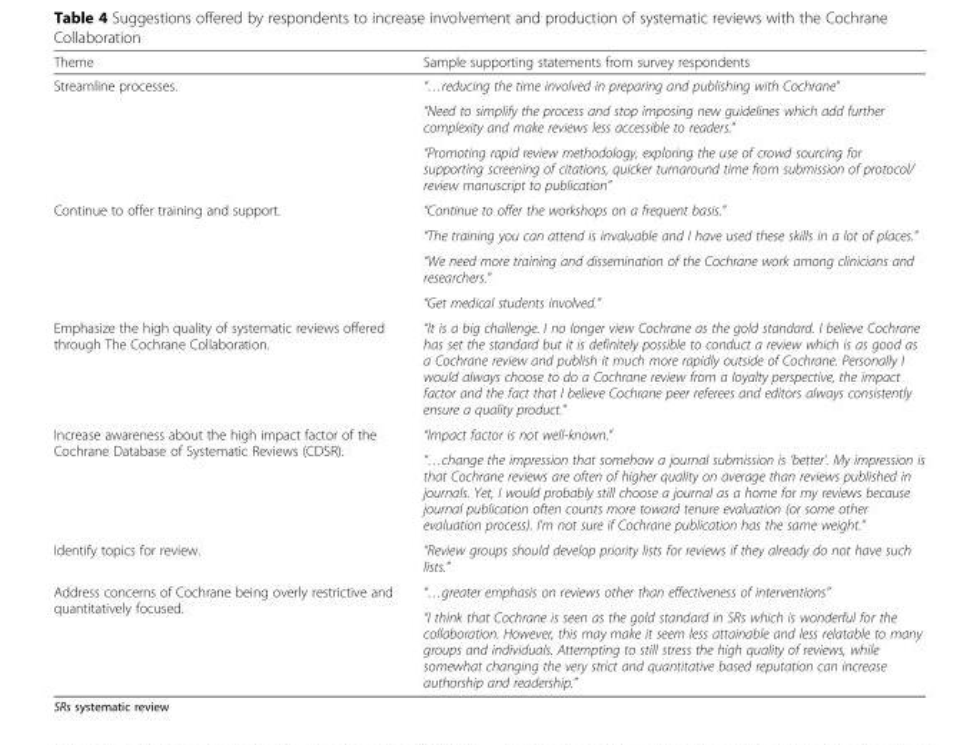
<table><thead><tr><td>Theme</td><td>Sample supporting statements from survey respondents</td></tr></thead><tbody><tr><td rowspan="3">Streamline processes.</td><td>“…reducing the time involved in preparing and publishing with Cochrane”</td></tr><tr><td>“Need to simplify the process and stop imposing new guidelines which add further complexity and make reviews less accessible to readers.”</td></tr><tr><td>“Promoting rapid review methodology, exploring the use of crowd sourcing for supporting screening of citations, quicker turnaround time from submission of protocol/ review manuscript to publication”</td></tr><tr><td rowspan="4">Continue to offer training and support.</td><td>“Continue to offer the workshops on a frequent basis.”</td></tr><tr><td>“The training you can attend is invaluable and I have used these skills in a lot of places.”</td></tr><tr><td>“We need more training and dissemination of the Cochrane work among clinicians and researchers.”</td></tr><tr><td>“Get medical students involved.”</td></tr><tr><td>Emphasize the high quality of systematic reviews offered through The Cochrane Collaboration.</td><td>“It is a big challenge. I no longer view Cochrane as the gold standard. I believe Cochrane has set the standard but it is definitely possible to conduct a review which is as good as a Cochrane review and publish it much more rapidly outside of Cochrane. Personally I would always choose to do a Cochrane review from a loyalty perspective, the impact factor and the fact that I believe Cochrane peer referees and editors always consistently ensure a quality product.”</td></tr><tr><td rowspan="2">Increase awareness about the high impact factor of the Cochrane Database of Systematic Reviews (CDSR).</td><td>“Impact factor is not well-known.”</td></tr><tr><td>“…change the impression that somehow a journal submission is ‘better’. My impression is that Cochrane reviews are often of higher quality on average than reviews published in journals. Yet, I would probably still choose a journal as a home for my reviews because journal publication often counts more toward tenure evaluation (or some other evaluation process). I’m not sure if Cochrane publication has the same weight.”</td></tr><tr><td>Identify topics for review.</td><td>“Review groups should develop priority lists for reviews if they already do not have such lists.”</td></tr><tr><td rowspan="2">Address concerns of Cochrane being overly restrictive and quantitatively focused.</td><td>“…greater emphasis on reviews other than effectiveness of interventions”</td></tr><tr><td>“I think that Cochrane is seen as the gold standard in SRs which is wonderful for the collaboration. However, this may make it seem less attainable and less relatable to many groups and individuals. Attempting to still stress the high quality of reviews, while somewhat changing the very strict and quantitative based reputation can increase authorship and readership.”</td></tr></tbody></table>